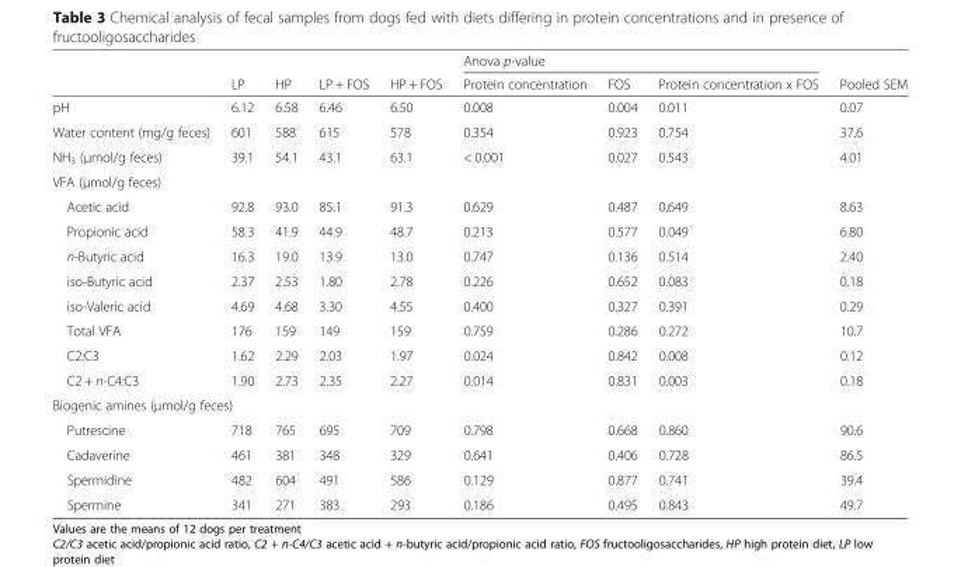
<table><thead><tr><td rowspan="2"></td><td rowspan="2">LP</td><td rowspan="2">HP</td><td rowspan="2">LP + FOS</td><td rowspan="2">HP + FOS</td><td colspan="3">Anova p-value</td><td rowspan="2">Pooled SEM</td></tr><tr><td>Protein concentration</td><td>FOS</td><td>Protein concentration x FOS</td></tr></thead><tbody><tr><td>pH</td><td>6.12</td><td>6.58</td><td>6.46</td><td>6.50</td><td>0.008</td><td>0.004</td><td>0.011</td><td>0.07</td></tr><tr><td>Water content (mg/g feces)</td><td>601</td><td>588</td><td>615</td><td>578</td><td>0.354</td><td>0.923</td><td>0.754</td><td>37.6</td></tr><tr><td>NH<sub>3</sub> (μmol/g feces)</td><td>39.1</td><td>54.1</td><td>43.1</td><td>63.1</td><td>&lt; 0.001</td><td>0.027</td><td>0.543</td><td>4.01</td></tr><tr><td colspan="9">VFA (μmol/g feces)</td></tr><tr><td>Acetic acid</td><td>92.8</td><td>93.0</td><td>85.1</td><td>91.3</td><td>0.629</td><td>0.487</td><td>0.649</td><td>8.63</td></tr><tr><td>Propionic acid</td><td>58.3</td><td>41.9</td><td>44.9</td><td>48.7</td><td>0.213</td><td>0.577</td><td>0.049</td><td>6.80</td></tr><tr><td>n-Butyric acid</td><td>16.3</td><td>19.0</td><td>13.9</td><td>13.0</td><td>0.747</td><td>0.136</td><td>0.514</td><td>2.40</td></tr><tr><td>iso-Butyric acid</td><td>2.37</td><td>2.53</td><td>1.80</td><td>2.78</td><td>0.226</td><td>0.652</td><td>0.083</td><td>0.18</td></tr><tr><td>iso-Valeric acid</td><td>4.69</td><td>4.68</td><td>3.30</td><td>4.55</td><td>0.400</td><td>0.327</td><td>0.391</td><td>0.29</td></tr><tr><td>Total VFA</td><td>176</td><td>159</td><td>149</td><td>159</td><td>0.759</td><td>0.286</td><td>0.272</td><td>10.7</td></tr><tr><td>C2:C3</td><td>1.62</td><td>2.29</td><td>2.03</td><td>1.97</td><td>0.024</td><td>0.842</td><td>0.008</td><td>0.12</td></tr><tr><td>C2 + n-C4:C3</td><td>1.90</td><td>2.73</td><td>2.35</td><td>2.27</td><td>0.014</td><td>0.831</td><td>0.003</td><td>0.18</td></tr><tr><td colspan="9">Biogenic amines (μmol/g feces)</td></tr><tr><td>Putrescine</td><td>718</td><td>765</td><td>695</td><td>709</td><td>0.798</td><td>0.668</td><td>0.860</td><td>90.6</td></tr><tr><td>Cadaverine</td><td>461</td><td>381</td><td>348</td><td>329</td><td>0.641</td><td>0.406</td><td>0.728</td><td>86.5</td></tr><tr><td>Spermidine</td><td>482</td><td>604</td><td>491</td><td>586</td><td>0.129</td><td>0.877</td><td>0.741</td><td>39.4</td></tr><tr><td>Spermine</td><td>341</td><td>271</td><td>383</td><td>293</td><td>0.186</td><td>0.495</td><td>0.843</td><td>49.7</td></tr></tbody></table>